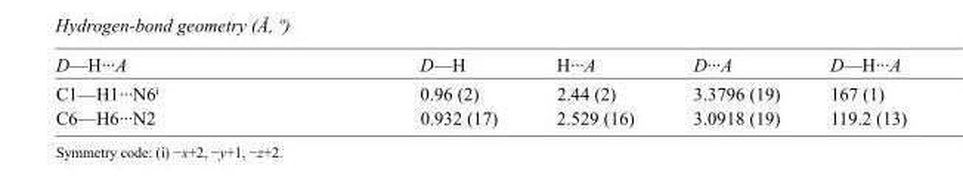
<table><tbody><tr><td>D—H···A</td><td>D—H</td><td>H···A</td><td>D···A</td><td>D—H···A</td></tr><tr><td>C1—H1···N6<sup>i</sup></td><td>0.96 (2)</td><td>2.44 (2)</td><td>3.3796 (19)</td><td>167 (1)</td></tr><tr><td>C6—H6···N2</td><td>0.932 (17)</td><td>2.529 (16)</td><td>3.0918 (19)</td><td>119.2 (13)</td></tr></tbody></table>